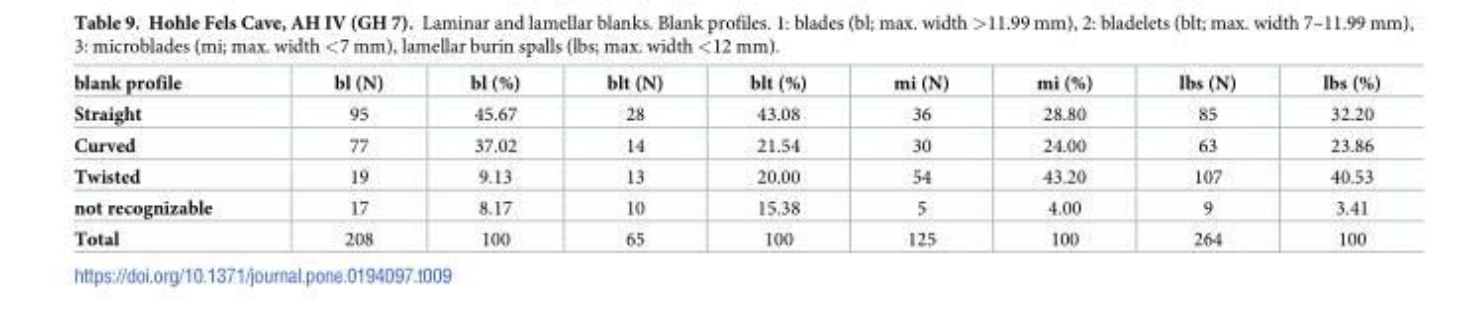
<table><thead><tr><td>blank profile</td><td>bl (N)</td><td>bl (%)</td><td>blt (N)</td><td>blt (%)</td><td>mi (N)</td><td>mi (%)</td><td>lbs (N)</td><td>lbs (%)</td></tr></thead><tbody><tr><td>Straight</td><td>95</td><td>45.67</td><td>28</td><td>43.08</td><td>36</td><td>28.80</td><td>85</td><td>32.20</td></tr><tr><td>Curved</td><td>77</td><td>37.02</td><td>14</td><td>21.54</td><td>30</td><td>24.00</td><td>63</td><td>23.86</td></tr><tr><td>Twisted</td><td>19</td><td>9.13</td><td>13</td><td>20.00</td><td>54</td><td>43.20</td><td>107</td><td>40.53</td></tr><tr><td>not recognizable</td><td>17</td><td>8.17</td><td>10</td><td>15.38</td><td>5</td><td>4.00</td><td>9</td><td>3.41</td></tr><tr><td>Total</td><td>208</td><td>100</td><td>65</td><td>100</td><td>125</td><td>100</td><td>264</td><td>100</td></tr></tbody></table>